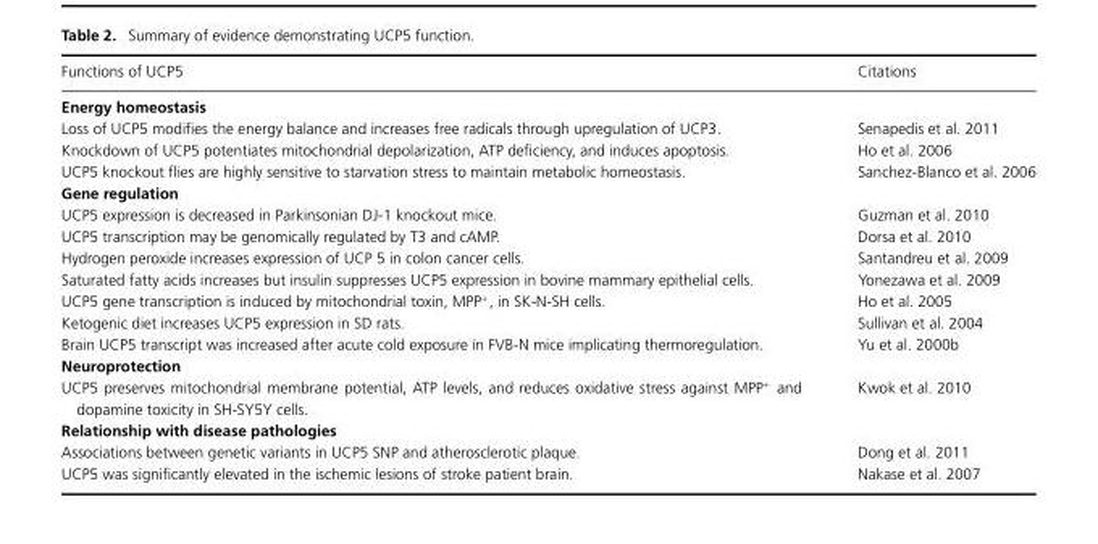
<table><thead><tr><td>Functions of UCP5</td><td>Citations</td></tr></thead><tbody><tr><td colspan="2">Energy homeostasis</td></tr><tr><td>Loss of UCP5 modifies the energy balance and increases free radicals through upregulation of UCP3.</td><td>Senapedis et al. 2011</td></tr><tr><td>Knockdown of UCP5 potentiates mitochondrial depolarization, ATP deficiency, and induces apoptosis.</td><td>Ho et al. 2006</td></tr><tr><td>UCP5 knockout flies are highly sensitive to starvation stress to maintain metabolic homeostasis.</td><td>Sanchez-Blanco et al. 2006</td></tr><tr><td colspan="2">Gene regulation</td></tr><tr><td>UCP5 expression is decreased in Parkinsonian DJ-1 knockout mice.</td><td>Guzman et al. 2010</td></tr><tr><td>UCP5 transcription may be genomically regulated by T3 and cAMP.</td><td>Dorsa et al. 2010</td></tr><tr><td>Hydrogen peroxide increases expression of UCP 5 in colon cancer cells.</td><td>Santandreu et al. 2009</td></tr><tr><td>Saturated fatty acids increases but insulin suppresses UCP5 expression in bovine mammary epithelial cells.</td><td>Yonezawa et al. 2009</td></tr><tr><td>UCP5 gene transcription is induced by mitochondrial toxin, MPP<sup>+</sup>, in SK-N-SH cells.</td><td>Ho et al. 2005</td></tr><tr><td>Ketogenic diet increases UCP5 expression in SD rats.</td><td>Sullivan et al. 2004</td></tr><tr><td>Brain UCP5 transcript was increased after acute cold exposure in FVB-N mice implicating thermoregulation.</td><td>Yu et al. 2000b</td></tr><tr><td colspan="2">Neuroprotection</td></tr><tr><td>UCP5 preserves mitochondrial membrane potential, ATP levels, and reduces oxidative stress against MPP<sup>+</sup> and dopamine toxicity in SH-SY5Y cells.</td><td>Kwok et al. 2010</td></tr><tr><td colspan="2">Relationship with disease pathologies</td></tr><tr><td>Associations between genetic variants in UCP5 SNP and atherosclerotic plaque.</td><td>Dong et al. 2011</td></tr><tr><td>UCP5 was significantly elevated in the ischemic lesions of stroke patient brain.</td><td>Nakase et al. 2007</td></tr></tbody></table>